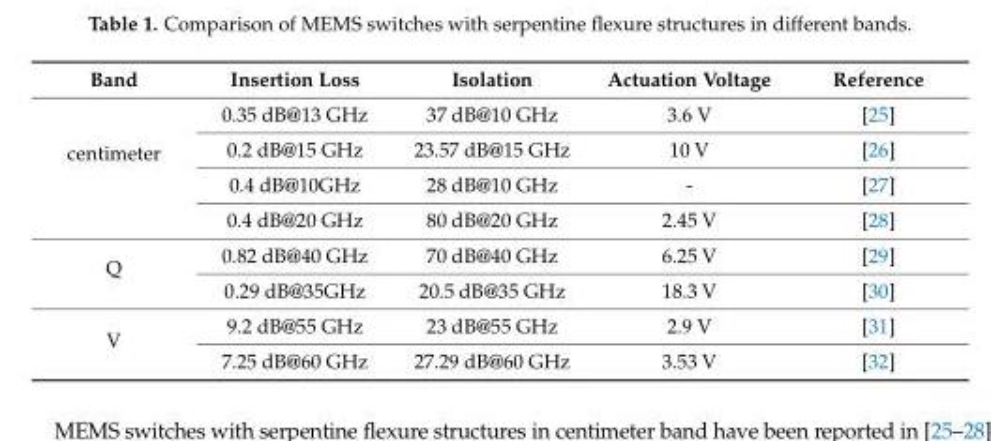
<table><thead><tr><td>Band</td><td>Insertion Loss</td><td>Isolation</td><td>Actuation Voltage</td><td>Reference</td></tr></thead><tbody><tr><td rowspan="4">centimeter</td><td>0.35 dB@13 GHz</td><td>37 dB@10 GHz</td><td>3.6 V</td><td>[25]</td></tr><tr><td>0.2 dB@15 GHz</td><td>23.57 dB@15 GHz</td><td>10 V</td><td>[26]</td></tr><tr><td>0.4 dB@10GHz</td><td>28 dB@10 GHz</td><td>-</td><td>[27]</td></tr><tr><td>0.4 dB@20 GHz</td><td>80 dB@20 GHz</td><td>2.45 V</td><td>[28]</td></tr><tr><td rowspan="2">Q</td><td>0.82 dB@40 GHz</td><td>70 dB@40 GHz</td><td>6.25 V</td><td>[29]</td></tr><tr><td>0.29 dB@35GHz</td><td>20.5 dB@35 GHz</td><td>18.3 V</td><td>[30]</td></tr><tr><td rowspan="2">V</td><td>9.2 dB@55 GHz</td><td>23 dB@55 GHz</td><td>2.9 V</td><td>[31]</td></tr><tr><td>7.25 dB@60 GHz</td><td>27.29 dB@60 GHz</td><td>3.53 V</td><td>[32]</td></tr></tbody></table>